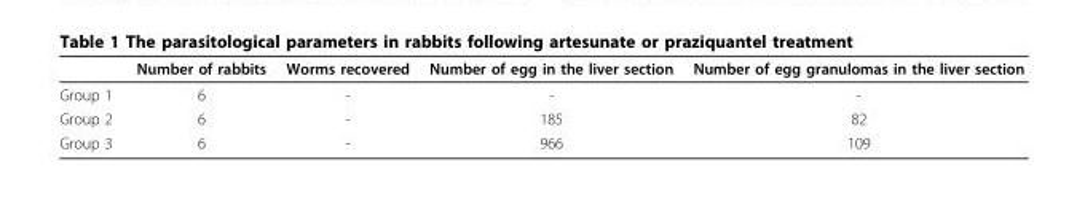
<table><thead><tr><td></td><td>Number of rabbits</td><td>Worms recovered</td><td>Number of egg in the liver section</td><td>Number of egg granulomas in the liver section</td></tr></thead><tbody><tr><td>Group 1</td><td>6</td><td>-</td><td>-</td><td>-</td></tr><tr><td>Group 2</td><td>6</td><td>-</td><td>185</td><td>82</td></tr><tr><td>Group 3</td><td>6</td><td>-</td><td>966</td><td>109</td></tr></tbody></table>